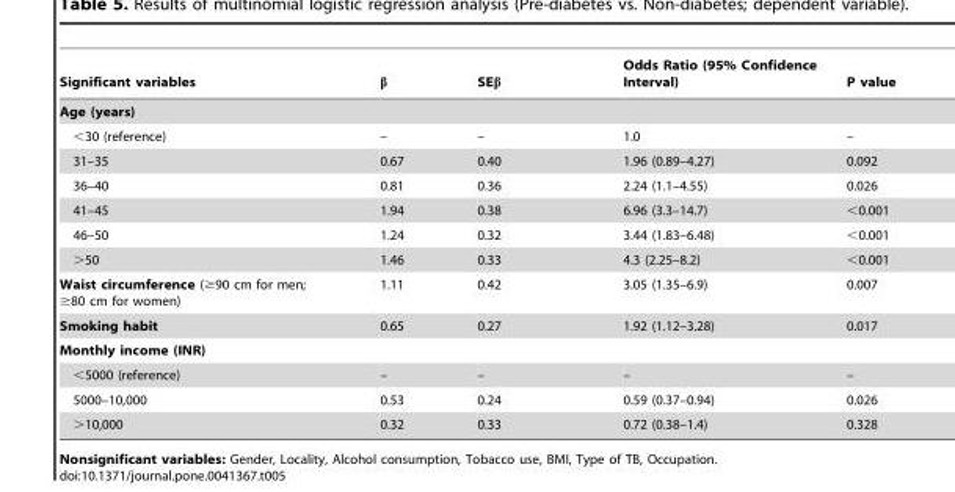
<table><thead><tr><td>Significant variables</td><td>β</td><td>SEβ</td><td>Odds Ratio (95% Confidence Interval)</td><td>P value</td></tr></thead><tbody><tr><td colspan="5">Age (years)</td></tr><tr><td>&lt;30 (reference)</td><td>–</td><td>–</td><td>1.0</td><td>–</td></tr><tr><td>31–35</td><td>0.67</td><td>0.40</td><td>1.96 (0.89–4.27)</td><td>0.092</td></tr><tr><td>36–40</td><td>0.81</td><td>0.36</td><td>2.24 (1.1–4.55)</td><td>0.026</td></tr><tr><td>41–45</td><td>1.94</td><td>0.38</td><td>6.96 (3.3–14.7)</td><td>&lt;0.001</td></tr><tr><td>46–50</td><td>1.24</td><td>0.32</td><td>3.44 (1.83–6.48)</td><td>&lt;0.001</td></tr><tr><td>&gt;50</td><td>1.46</td><td>0.33</td><td>4.3 (2.25–8.2)</td><td>&lt;0.001</td></tr><tr><td>Waist circumference (≥90 cm for men; ≥80 cm for women)</td><td>1.11</td><td>0.42</td><td>3.05 (1.35–6.9)</td><td>0.007</td></tr><tr><td>Smoking habit</td><td>0.65</td><td>0.27</td><td>1.92 (1.12–3.28)</td><td>0.017</td></tr><tr><td colspan="5">Monthly income (INR)</td></tr><tr><td>&lt;5000 (reference)</td><td>–</td><td>–</td><td>–</td><td>–</td></tr><tr><td>5000–10,000</td><td>0.53</td><td>0.24</td><td>0.59 (0.37–0.94)</td><td>0.026</td></tr><tr><td>&gt;10,000</td><td>0.32</td><td>0.33</td><td>0.72 (0.38–1.4)</td><td>0.328</td></tr></tbody></table>